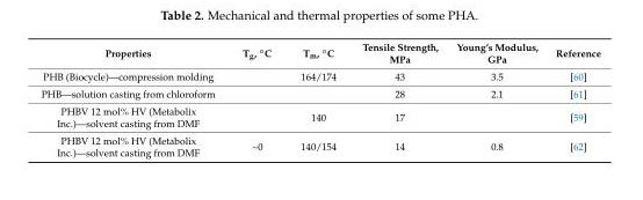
<table><thead><tr><td>Properties</td><td>Tg, ◦C</td><td>Tm, ◦C</td><td>Tensile Strength, MPa</td><td>Young’s Modulus, GPa</td><td>Reference</td></tr></thead><tbody><tr><td>PHB (Biocycle)—compression molding</td><td></td><td>164/174</td><td>43</td><td>3.5</td><td>[60]</td></tr><tr><td>PHB—solution casting from chloroform</td><td></td><td></td><td>28</td><td>2.1</td><td>[61]</td></tr><tr><td>PHBV 12 mol% HV (Metabolix Inc.)—solvent casting from DMF</td><td></td><td>140</td><td>17</td><td></td><td>[59]</td></tr><tr><td>PHBV 12 mol% HV (Metabolix Inc.)—solvent casting from DMF</td><td>~0</td><td>140/154</td><td>14</td><td>0.8</td><td>[62]</td></tr></tbody></table>